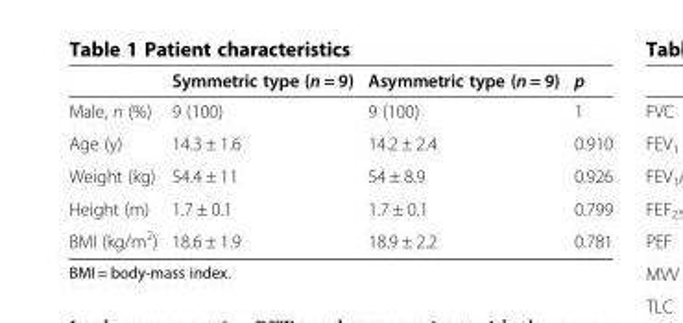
<table><thead><tr><td></td><td>Symmetric type (n = 9)</td><td>Asymmetric type (n = 9)</td><td>p</td></tr></thead><tbody><tr><td>Male, n (%)</td><td>9 (100)</td><td>9 (100)</td><td>1</td></tr><tr><td>Age (y)</td><td>14.3 ± 1.6</td><td>14.2 ± 2.4</td><td>0.910</td></tr><tr><td>Weight (kg)</td><td>54.4 ± 11</td><td>54 ± 8.9</td><td>0.926</td></tr><tr><td>Height (m)</td><td>1.7 ± 0.1</td><td>1.7 ± 0.1</td><td>0.799</td></tr><tr><td>BMI (kg/m<sup>2</sup>)</td><td>18.6 ± 1.9</td><td>18.9 ± 2.2</td><td>0.781</td></tr></tbody></table>